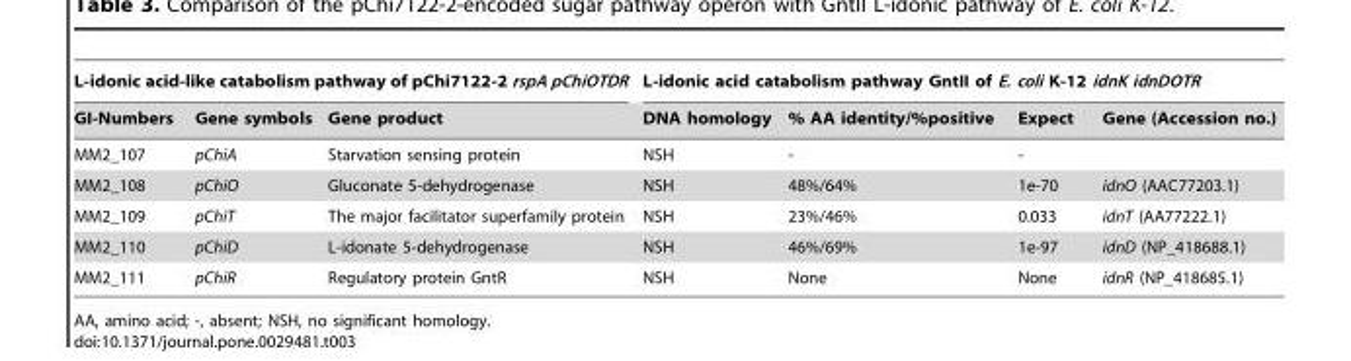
<table><thead><tr><td colspan="3">L-idonic acid-like catabolism pathway of pChi7122-2 rspA pChiOTDR</td><td colspan="4">L-idonic acid catabolism pathway GntII of E. coli K-12 idnK idnDOTR</td></tr><tr><td>GI-Numbers</td><td>Gene symbols</td><td>Gene product</td><td>DNA homology</td><td>% AA identity/%positive</td><td>Expect</td><td>Gene (Accession no.)</td></tr></thead><tbody><tr><td>MM2_107</td><td>pChiA</td><td>Starvation sensing protein</td><td>NSH</td><td>-</td><td>-</td><td></td></tr><tr><td>MM2_108</td><td>pChiO</td><td>Gluconate 5-dehydrogenase</td><td>NSH</td><td>48%/64%</td><td>1e-70</td><td>idnO (AAC77203.1)</td></tr><tr><td>MM2_109</td><td>pChiT</td><td>The major facilitator superfamily protein</td><td>NSH</td><td>23%/46%</td><td>0.033</td><td>idnT (AA77222.1)</td></tr><tr><td>MM2_110</td><td>pChiD</td><td>L-idonate 5-dehydrogenase</td><td>NSH</td><td>46%/69%</td><td>1e-97</td><td>idnD (NP_418688.1)</td></tr><tr><td>MM2_111</td><td>pChiR</td><td>Regulatory protein GntR</td><td>NSH</td><td>None</td><td>None</td><td>idnR (NP_418685.1)</td></tr></tbody></table>